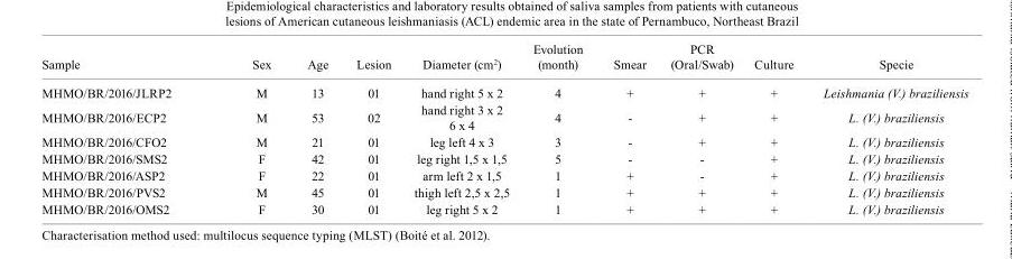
<table><thead><tr><td>Sample</td><td>Sex</td><td>Age</td><td>Lesion</td><td>Diameter (cm<sup>2</sup>)</td><td>Evolution (month)</td><td>Smear</td><td>PCR (Oral/Swab)</td><td>Culture</td><td>Specie</td></tr></thead><tbody><tr><td>MHMO/BR/2016/JLRP2</td><td>M</td><td>13</td><td>01</td><td>hand right 5 x 2</td><td>4</td><td>+</td><td>+</td><td>+</td><td>Leishmania (V.) braziliensis</td></tr><tr><td>MHMO/BR/2016/ECP2</td><td>M</td><td>53</td><td>02</td><td>hand right 3 x 2 6 x 4</td><td>4</td><td>-</td><td>+</td><td>+</td><td>L. (V.) braziliensis</td></tr><tr><td>MHMO/BR/2016/CFO2</td><td>M</td><td>21</td><td>01</td><td>leg left 4 x 3</td><td>3</td><td>-</td><td>+</td><td>+</td><td>L. (V.) braziliensis</td></tr><tr><td>MHMO/BR/2016/SMS2</td><td>F</td><td>42</td><td>01</td><td>leg right 1,5 x 1,5</td><td>5</td><td>-</td><td>-</td><td>+</td><td>L. (V.) braziliensis</td></tr><tr><td>MHMO/BR/2016/ASP2</td><td>F</td><td>22</td><td>01</td><td>arm left 2 x 1,5</td><td>1</td><td>+</td><td>-</td><td>+</td><td>L. (V.) braziliensis</td></tr><tr><td>MHMO/BR/2016/PVS2</td><td>M</td><td>45</td><td>01</td><td>thigh left 2,5 x 2,5</td><td>1</td><td>+</td><td>+</td><td>+</td><td>L. (V.) braziliensis</td></tr><tr><td>MHMO/BR/2016/OMS2</td><td>F</td><td>30</td><td>01</td><td>leg right 5 x 2</td><td>1</td><td>+</td><td>+</td><td>+</td><td>L. (V.) braziliensis</td></tr></tbody></table>